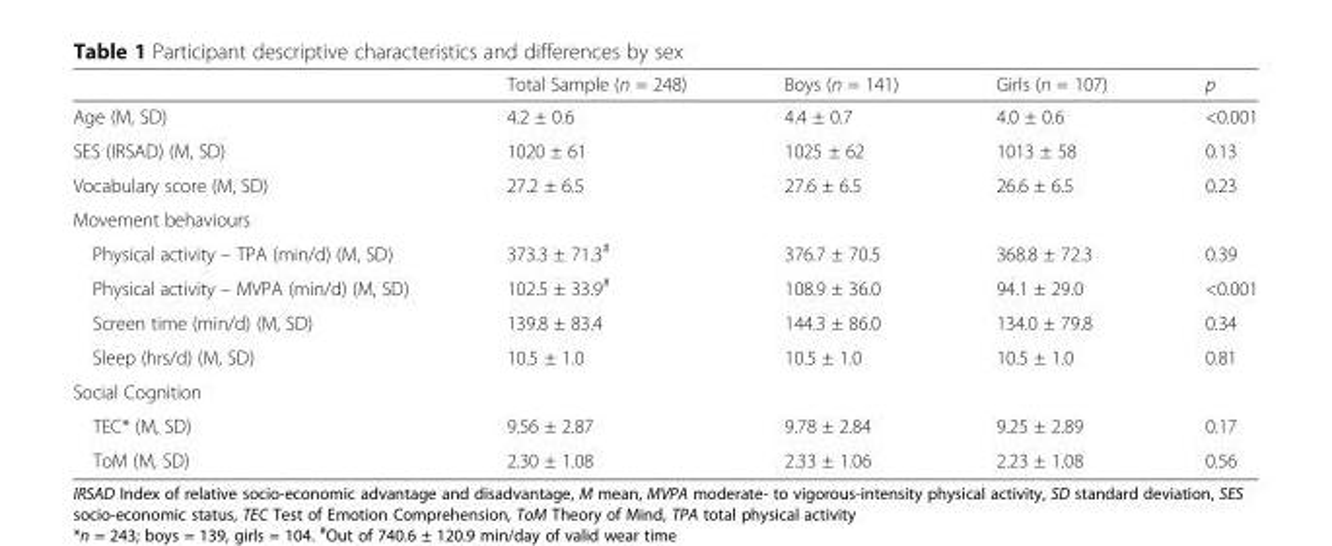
<table><thead><tr><td></td><td>Total Sample (n = 248)</td><td>Boys (n = 141)</td><td>Girls (n = 107)</td><td>p</td></tr></thead><tbody><tr><td>Age (M, SD)</td><td>4.2 ± 0.6</td><td>4.4 ± 0.7</td><td>4.0 ± 0.6</td><td>&lt;0.001</td></tr><tr><td>SES (IRSAD) (M, SD)</td><td>1020 ± 61</td><td>1025 ± 62</td><td>1013 ± 58</td><td>0.13</td></tr><tr><td>Vocabulary score (M, SD)</td><td>27.2 ± 6.5</td><td>27.6 ± 6.5</td><td>26.6 ± 6.5</td><td>0.23</td></tr><tr><td colspan="5">Movement behaviours</td></tr><tr><td>Physical activity – TPA (min/d) (M, SD)</td><td>373.3 ± 71.3<sup>#</sup></td><td>376.7 ± 70.5</td><td>368.8 ± 72.3</td><td>0.39</td></tr><tr><td>Physical activity – MVPA (min/d) (M, SD)</td><td>102.5 ± 33.9<sup>#</sup></td><td>108.9 ± 36.0</td><td>94.1 ± 29.0</td><td>&lt;0.001</td></tr><tr><td>Screen time (min/d) (M, SD)</td><td>139.8 ± 83.4</td><td>144.3 ± 86.0</td><td>134.0 ± 79.8</td><td>0.34</td></tr><tr><td>Sleep (hrs/d) (M, SD)</td><td>10.5 ± 1.0</td><td>10.5 ± 1.0</td><td>10.5 ± 1.0</td><td>0.81</td></tr><tr><td colspan="5">Social Cognition</td></tr><tr><td>TEC* (M, SD)</td><td>9.56 ± 2.87</td><td>9.78 ± 2.84</td><td>9.25 ± 2.89</td><td>0.17</td></tr><tr><td>ToM (M, SD)</td><td>2.30 ± 1.08</td><td>2.33 ± 1.06</td><td>2.23 ± 1.08</td><td>0.56</td></tr></tbody></table>